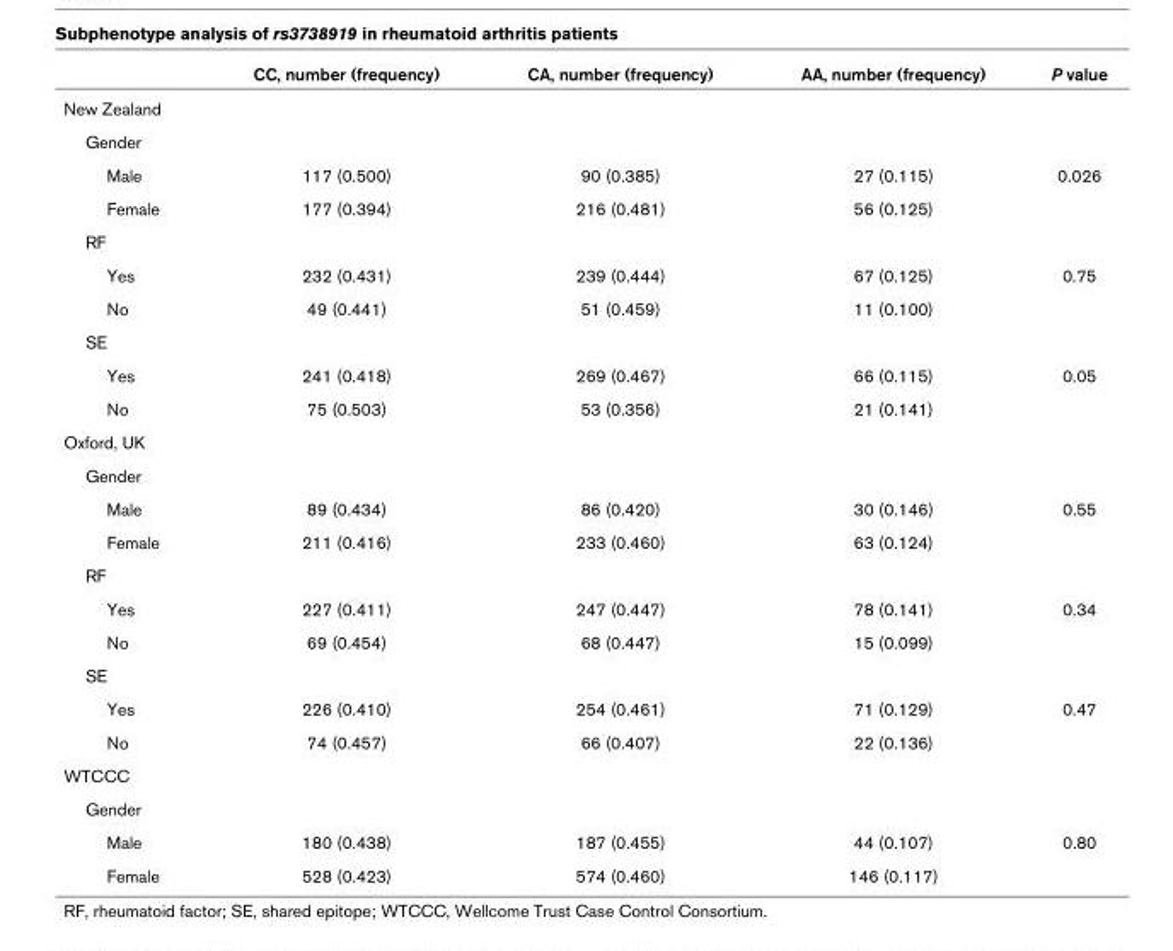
<table><thead><tr><td></td><td>CC, number (frequency)</td><td>CA, number (frequency)</td><td>AA, number (frequency)</td><td>P value</td></tr></thead><tbody><tr><td colspan="5">New Zealand</td></tr><tr><td colspan="5">Gender</td></tr><tr><td>Male</td><td>117 (0.500)</td><td>90 (0.385)</td><td>27 (0.115)</td><td>0.026</td></tr><tr><td>Female</td><td>177 (0.394)</td><td>216 (0.481)</td><td>56 (0.125)</td><td></td></tr><tr><td colspan="5">RF</td></tr><tr><td>Yes</td><td>232 (0.431)</td><td>239 (0.444)</td><td>67 (0.125)</td><td>0.75</td></tr><tr><td>No</td><td>49 (0.441)</td><td>51 (0.459)</td><td>11 (0.100)</td><td></td></tr><tr><td colspan="5">SE</td></tr><tr><td>Yes</td><td>241 (0.418)</td><td>269 (0.467)</td><td>66 (0.115)</td><td>0.05</td></tr><tr><td>No</td><td>75 (0.503)</td><td>53 (0.356)</td><td>21 (0.141)</td><td></td></tr><tr><td colspan="5">Oxford, UK</td></tr><tr><td colspan="5">Gender</td></tr><tr><td>Male</td><td>89 (0.434)</td><td>86 (0.420)</td><td>30 (0.146)</td><td>0.55</td></tr><tr><td>Female</td><td>211 (0.416)</td><td>233 (0.460)</td><td>63 (0.124)</td><td></td></tr><tr><td colspan="5">RF</td></tr><tr><td>Yes</td><td>227 (0.411)</td><td>247 (0.447)</td><td>78 (0.141)</td><td>0.34</td></tr><tr><td>No</td><td>69 (0.454)</td><td>68 (0.447)</td><td>15 (0.099)</td><td></td></tr><tr><td colspan="5">SE</td></tr><tr><td>Yes</td><td>226 (0.410)</td><td>254 (0.461)</td><td>71 (0.129)</td><td>0.47</td></tr><tr><td>No</td><td>74 (0.457)</td><td>66 (0.407)</td><td>22 (0.136)</td><td></td></tr><tr><td colspan="5">WTCCC</td></tr><tr><td colspan="5">Gender</td></tr><tr><td>Male</td><td>180 (0.438)</td><td>187 (0.455)</td><td>44 (0.107)</td><td>0.80</td></tr><tr><td>Female</td><td>528 (0.423)</td><td>574 (0.460)</td><td>146 (0.117)</td><td></td></tr></tbody></table>